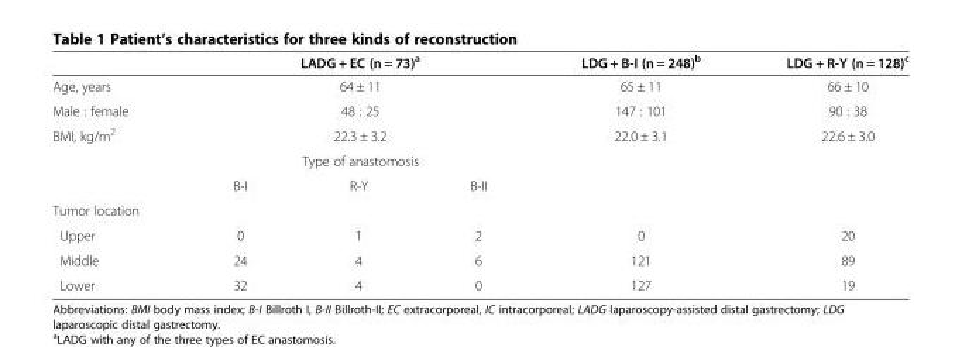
<table><thead><tr><td></td><td colspan="3">LADG + EC (n = 73)<sup>a</sup></td><td>LDG + B-I (n = 248)<sup>b</sup></td><td>LDG + R-Y (n = 128)<sup>c</sup></td></tr></thead><tbody><tr><td>Age, years</td><td colspan="3">64 ± 11</td><td>65 ± 11</td><td>66 ± 10</td></tr><tr><td>Male : female</td><td colspan="3">48 : 25</td><td>147 : 101</td><td>90 : 38</td></tr><tr><td rowspan="3">BMI, kg/m<sup>2</sup></td><td colspan="3">22.3 ± 3.2</td><td>22.0 ± 3.1</td><td>22.6 ± 3.0</td></tr><tr><td colspan="3">Type of anastomosis</td><td rowspan="2"></td><td rowspan="2"></td></tr><tr><td>B-I</td><td>R-Y</td><td>B-II</td></tr><tr><td colspan="6">Tumor location</td></tr><tr><td>Upper</td><td>0</td><td>1</td><td>2</td><td>0</td><td>20</td></tr><tr><td>Middle</td><td>24</td><td>4</td><td>6</td><td>121</td><td>89</td></tr><tr><td>Lower</td><td>32</td><td>4</td><td>0</td><td>127</td><td>19</td></tr></tbody></table>